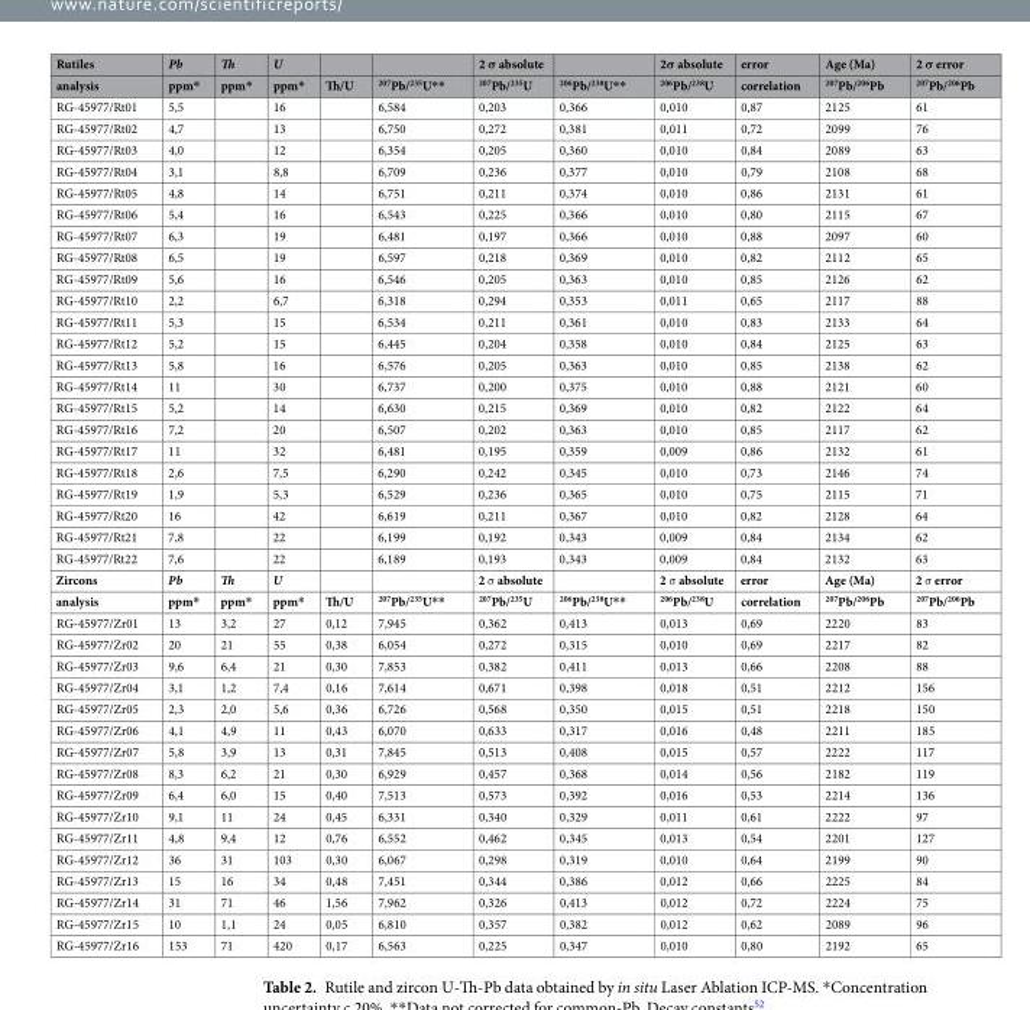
<table><thead><tr><td rowspan="2">Rutiles analysis</td><td rowspan="2">Pb ppm*</td><td rowspan="2">Th ppm*</td><td rowspan="2">U ppm*</td><td rowspan="2">Th/U</td><td rowspan="2">207Pb/235U**</td><td rowspan="2">2 σ absolute 207Pb/235U</td><td rowspan="2">206Pb/238U**</td><td rowspan="2">2σ absolute 206Pb/238U</td><td rowspan="2">error correlation</td><td rowspan="2">Age (Ma) 207Pb/206Pb</td><td rowspan="2">2 σ error 207Pb/206Pb</td></tr><tr></tr></thead><tbody><tr><td>RG-45977/Rt01</td><td>5,5</td><td></td><td>16</td><td></td><td>6,584</td><td>0,203</td><td>0,366</td><td>0,010</td><td>0,87</td><td>2125</td><td>61</td></tr><tr><td>RG-45977/Rt02</td><td>4,7</td><td></td><td>13</td><td></td><td>6,750</td><td>0,272</td><td>0,381</td><td>0,011</td><td>0,72</td><td>2099</td><td>76</td></tr><tr><td>RG-45977/Rt03</td><td>4,0</td><td></td><td>12</td><td></td><td>6,354</td><td>0,205</td><td>0,360</td><td>0,010</td><td>0,84</td><td>2089</td><td>63</td></tr><tr><td>RG-45977/Rt04</td><td>3,1</td><td></td><td>8,8</td><td></td><td>6,709</td><td>0,236</td><td>0,377</td><td>0,010</td><td>0,79</td><td>2108</td><td>68</td></tr><tr><td>RG-45977/Rt05</td><td>4,8</td><td></td><td>14</td><td></td><td>6,751</td><td>0,211</td><td>0,374</td><td>0,010</td><td>0,86</td><td>2131</td><td>61</td></tr><tr><td>RG-45977/Rt06</td><td>5,4</td><td></td><td>16</td><td></td><td>6,543</td><td>0,225</td><td>0,366</td><td>0,010</td><td>0,80</td><td>2115</td><td>67</td></tr><tr><td>RG-45977/Rt07</td><td>6,3</td><td></td><td>19</td><td></td><td>6,481</td><td>0,197</td><td>0,366</td><td>0,010</td><td>0,88</td><td>2097</td><td>60</td></tr><tr><td>RG-45977/Rt08</td><td>6,5</td><td></td><td>19</td><td></td><td>6,597</td><td>0,218</td><td>0,369</td><td>0,010</td><td>0,82</td><td>2112</td><td>65</td></tr><tr><td>RG-45977/Rt09</td><td>5,6</td><td></td><td>16</td><td></td><td>6,546</td><td>0,205</td><td>0,363</td><td>0,010</td><td>0,85</td><td>2126</td><td>62</td></tr><tr><td>RG-45977/Rt10</td><td>2,2</td><td></td><td>6,7</td><td></td><td>6,318</td><td>0,294</td><td>0,353</td><td>0,011</td><td>0,65</td><td>2117</td><td>88</td></tr><tr><td>RG-45977/Rt11</td><td>5,3</td><td></td><td>15</td><td></td><td>6,534</td><td>0,211</td><td>0,361</td><td>0,010</td><td>0,83</td><td>2133</td><td>64</td></tr><tr><td>RG-45977/Rt12</td><td>5,2</td><td></td><td>15</td><td></td><td>6,445</td><td>0,204</td><td>0,358</td><td>0,010</td><td>0,84</td><td>2125</td><td>63</td></tr><tr><td>RG-45977/Rt13</td><td>5,8</td><td></td><td>16</td><td></td><td>6,576</td><td>0,205</td><td>0,363</td><td>0,010</td><td>0,85</td><td>2138</td><td>62</td></tr><tr><td>RG-45977/Rt14</td><td>11</td><td></td><td>30</td><td></td><td>6,737</td><td>0,200</td><td>0,375</td><td>0,010</td><td>0,88</td><td>2121</td><td>60</td></tr><tr><td>RG-45977/Rt15</td><td>5,2</td><td></td><td>14</td><td></td><td>6,630</td><td>0,215</td><td>0,369</td><td>0,010</td><td>0,82</td><td>2122</td><td>64</td></tr><tr><td>RG-45977/Rt16</td><td>7,2</td><td></td><td>20</td><td></td><td>6,507</td><td>0,202</td><td>0,363</td><td>0,010</td><td>0,85</td><td>2117</td><td>62</td></tr><tr><td>RG-45977/Rt17</td><td>11</td><td></td><td>32</td><td></td><td>6,481</td><td>0,195</td><td>0,359</td><td>0,009</td><td>0,86</td><td>2132</td><td>61</td></tr><tr><td>RG-45977/Rt18</td><td>2,6</td><td></td><td>7,5</td><td></td><td>6,290</td><td>0,242</td><td>0,345</td><td>0,010</td><td>0,73</td><td>2146</td><td>74</td></tr><tr><td>RG-45977/Rt19</td><td>1,9</td><td></td><td>5,3</td><td></td><td>6,529</td><td>0,236</td><td>0,365</td><td>0,010</td><td>0,75</td><td>2115</td><td>71</td></tr><tr><td>RG-45977/Rt20</td><td>16</td><td></td><td>42</td><td></td><td>6,619</td><td>0,211</td><td>0,367</td><td>0,010</td><td>0,82</td><td>2128</td><td>64</td></tr><tr><td>RG-45977/Rt21</td><td>7,8</td><td></td><td>22</td><td></td><td>6,199</td><td>0,192</td><td>0,343</td><td>0,009</td><td>0,84</td><td>2134</td><td>62</td></tr><tr><td>RG-45977/Rt22</td><td>7,6</td><td></td><td>22</td><td></td><td>6,189</td><td>0,193</td><td>0,343</td><td>0,009</td><td>0,84</td><td>2132</td><td>63</td></tr><tr><td>Zircons</td><td>Pb</td><td>Th</td><td>U</td><td></td><td></td><td>2 σ absolute</td><td></td><td>2 σ absolute</td><td>error</td><td>Age (Ma)</td><td>2 σ error</td></tr><tr><td>analysis</td><td>ppm*</td><td>ppm*</td><td>ppm*</td><td>Th/U</td><td>207Pb/235U**</td><td>207Pb/235U</td><td>206Pb/238U**</td><td>206Pb/238U</td><td>correlation</td><td>207Pb/206Pb</td><td>207Pb/206Pb</td></tr><tr><td>RG-45977/Zr01</td><td>13</td><td>3,2</td><td>27</td><td>0,12</td><td>7,945</td><td>0,362</td><td>0,413</td><td>0,013</td><td>0,69</td><td>2220</td><td>83</td></tr><tr><td>RG-45977/Zr02</td><td>20</td><td>21</td><td>55</td><td>0,38</td><td>6,054</td><td>0,272</td><td>0,315</td><td>0,010</td><td>0,69</td><td>2217</td><td>82</td></tr><tr><td>RG-45977/Zr03</td><td>9,6</td><td>6,4</td><td>21</td><td>0,30</td><td>7,853</td><td>0,382</td><td>0,411</td><td>0,013</td><td>0,66</td><td>2208</td><td>88</td></tr><tr><td>RG-45977/Zr04</td><td>3,1</td><td>1,2</td><td>7,4</td><td>0,16</td><td>7,614</td><td>0,671</td><td>0,398</td><td>0,018</td><td>0,51</td><td>2212</td><td>156</td></tr><tr><td>RG-45977/Zr05</td><td>2,3</td><td>2,0</td><td>5,6</td><td>0,36</td><td>6,726</td><td>0,568</td><td>0,350</td><td>0,015</td><td>0,51</td><td>2218</td><td>150</td></tr><tr><td>RG-45977/Zr06</td><td>4,1</td><td>4,9</td><td>11</td><td>0,43</td><td>6,070</td><td>0,633</td><td>0,317</td><td>0,016</td><td>0,48</td><td>2211</td><td>185</td></tr><tr><td>RG-45977/Zr07</td><td>5,8</td><td>3,9</td><td>13</td><td>0,31</td><td>7,845</td><td>0,513</td><td>0,408</td><td>0,015</td><td>0,57</td><td>2222</td><td>117</td></tr><tr><td>RG-45977/Zr08</td><td>8,3</td><td>6,2</td><td>21</td><td>0,30</td><td>6,929</td><td>0,457</td><td>0,368</td><td>0,014</td><td>0,56</td><td>2182</td><td>119</td></tr><tr><td>RG-45977/Zr09</td><td>6,4</td><td>6,0</td><td>15</td><td>0,40</td><td>7,513</td><td>0,573</td><td>0,392</td><td>0,016</td><td>0,53</td><td>2214</td><td>136</td></tr><tr><td>RG-45977/Zr10</td><td>9,1</td><td>11</td><td>24</td><td>0,45</td><td>6,331</td><td>0,340</td><td>0,329</td><td>0,011</td><td>0,61</td><td>2222</td><td>97</td></tr><tr><td>RG-45977/Zr11</td><td>4,8</td><td>9,4</td><td>12</td><td>0,76</td><td>6,552</td><td>0,462</td><td>0,345</td><td>0,013</td><td>0,54</td><td>2201</td><td>127</td></tr><tr><td>RG-45977/Zr12</td><td>36</td><td>31</td><td>103</td><td>0,30</td><td>6,067</td><td>0,298</td><td>0,319</td><td>0,010</td><td>0,64</td><td>2199</td><td>90</td></tr><tr><td>RG-45977/Zr13</td><td>15</td><td>16</td><td>34</td><td>0,48</td><td>7,451</td><td>0,344</td><td>0,386</td><td>0,012</td><td>0,66</td><td>2225</td><td>84</td></tr><tr><td>RG-45977/Zr14</td><td>31</td><td>71</td><td>46</td><td>1,56</td><td>7,962</td><td>0,326</td><td>0,413</td><td>0,012</td><td>0,72</td><td>2224</td><td>75</td></tr><tr><td>RG-45977/Zr15</td><td>10</td><td>1,1</td><td>24</td><td>0,05</td><td>6,810</td><td>0,357</td><td>0,382</td><td>0,012</td><td>0,62</td><td>2089</td><td>96</td></tr><tr><td>RG-45977/Zr16</td><td>153</td><td>71</td><td>420</td><td>0,17</td><td>6,563</td><td>0,225</td><td>0,347</td><td>0,010</td><td>0,80</td><td>2192</td><td>65</td></tr></tbody></table>